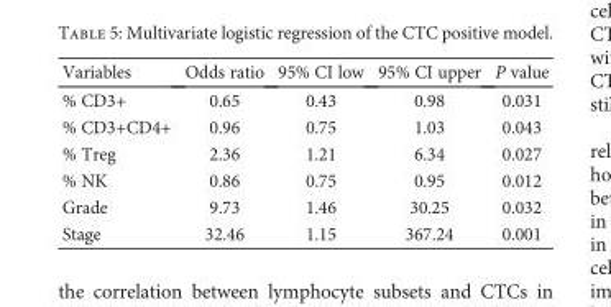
<table><thead><tr><td>Variables</td><td>Odds ratio</td><td>95% CI low</td><td>95% CI upper</td><td>P value</td></tr></thead><tbody><tr><td>% CD3+</td><td>0.65</td><td>0.43</td><td>0.98</td><td>0.031</td></tr><tr><td>% CD3+CD4+</td><td>0.96</td><td>0.75</td><td>1.03</td><td>0.043</td></tr><tr><td>% Treg</td><td>2.36</td><td>1.21</td><td>6.34</td><td>0.027</td></tr><tr><td>% NK</td><td>0.86</td><td>0.75</td><td>0.95</td><td>0.012</td></tr><tr><td>Grade</td><td>9.73</td><td>1.46</td><td>30.25</td><td>0.032</td></tr><tr><td>Stage</td><td>32.46</td><td>1.15</td><td>367.24</td><td>0.001</td></tr></tbody></table>